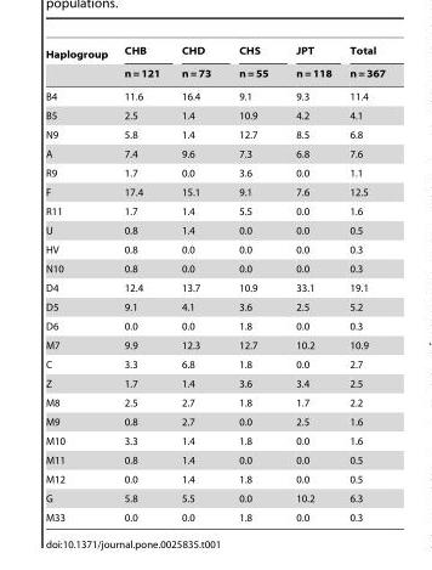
<table><thead><tr><td rowspan="2">Haplogroup</td><td rowspan="2">CHB n = 121</td><td rowspan="2">CHD n = 73</td><td rowspan="2">CHS n = 55</td><td rowspan="2">JPT n = 118</td><td rowspan="2">Total n = 367</td></tr><tr></tr></thead><tbody><tr><td>B4</td><td>11.6</td><td>16.4</td><td>9.1</td><td>9.3</td><td>11.4</td></tr><tr><td>B5</td><td>2.5</td><td>1.4</td><td>10.9</td><td>4.2</td><td>4.1</td></tr><tr><td>N9</td><td>5.8</td><td>1.4</td><td>12.7</td><td>8.5</td><td>6.8</td></tr><tr><td>A</td><td>7.4</td><td>9.6</td><td>7.3</td><td>6.8</td><td>7.6</td></tr><tr><td>R9</td><td>1.7</td><td>0.0</td><td>3.6</td><td>0.0</td><td>1.1</td></tr><tr><td>F</td><td>17.4</td><td>15.1</td><td>9.1</td><td>7.6</td><td>12.5</td></tr><tr><td>R11</td><td>1.7</td><td>1.4</td><td>5.5</td><td>0.0</td><td>1.6</td></tr><tr><td>U</td><td>0.8</td><td>1.4</td><td>0.0</td><td>0.0</td><td>0.5</td></tr><tr><td>HV</td><td>0.8</td><td>0.0</td><td>0.0</td><td>0.0</td><td>0.3</td></tr><tr><td>N10</td><td>0.8</td><td>0.0</td><td>0.0</td><td>0.0</td><td>0.3</td></tr><tr><td>D4</td><td>12.4</td><td>13.7</td><td>10.9</td><td>33.1</td><td>19.1</td></tr><tr><td>D5</td><td>9.1</td><td>4.1</td><td>3.6</td><td>2.5</td><td>5.2</td></tr><tr><td>D6</td><td>0.0</td><td>0.0</td><td>1.8</td><td>0.0</td><td>0.3</td></tr><tr><td>M7</td><td>9.9</td><td>12.3</td><td>12.7</td><td>10.2</td><td>10.9</td></tr><tr><td>C</td><td>3.3</td><td>6.8</td><td>1.8</td><td>0.0</td><td>2.7</td></tr><tr><td>Z</td><td>1.7</td><td>1.4</td><td>3.6</td><td>3.4</td><td>2.5</td></tr><tr><td>M8</td><td>2.5</td><td>2.7</td><td>1.8</td><td>1.7</td><td>2.2</td></tr><tr><td>M9</td><td>0.8</td><td>2.7</td><td>0.0</td><td>2.5</td><td>1.6</td></tr><tr><td>M10</td><td>3.3</td><td>1.4</td><td>1.8</td><td>0.0</td><td>1.6</td></tr><tr><td>M11</td><td>0.8</td><td>1.4</td><td>0.0</td><td>0.0</td><td>0.5</td></tr><tr><td>M12</td><td>0.0</td><td>1.4</td><td>1.8</td><td>0.0</td><td>0.5</td></tr><tr><td>G</td><td>5.8</td><td>5.5</td><td>0.0</td><td>10.2</td><td>6.3</td></tr><tr><td>M33</td><td>0.0</td><td>0.0</td><td>1.8</td><td>0.0</td><td>0.3</td></tr></tbody></table>